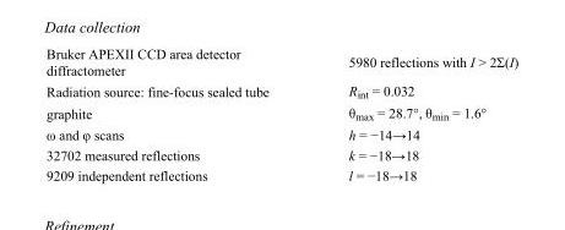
<table><tbody><tr><td>Bruker APEXII CCD area detector diffractometer</td><td>5980 reflections with I &gt; 2Σ(I)</td></tr><tr><td>Radiation source: fine-focus sealed tube</td><td>R<sub>int</sub> = 0.032</td></tr><tr><td>graphite</td><td>θ<sub>max</sub> = 28.7°, θ<sub>min</sub> = 1.6°</td></tr><tr><td>ω and φ scans</td><td>h = −14→14</td></tr><tr><td>32702 measured reflections</td><td>k = −18→18</td></tr><tr><td>9209 independent reflections</td><td>l = −18→18</td></tr></tbody></table>